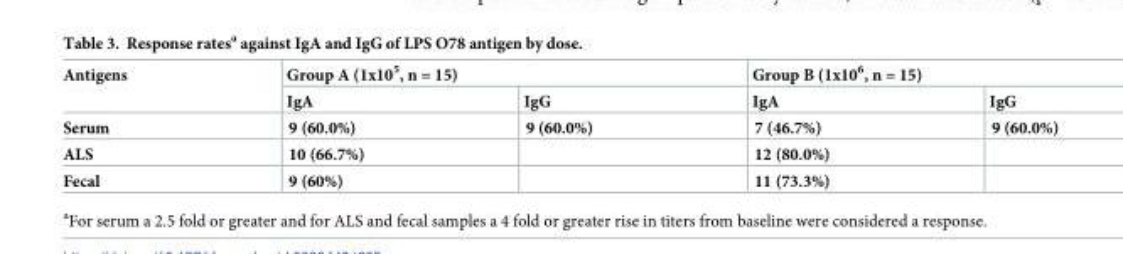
<table><thead><tr><td rowspan="2">Antigens</td><td colspan="2">Group A (1x10<sup>5</sup>, n = 15)</td><td colspan="2">Group B (1x10<sup>6</sup>, n = 15)</td></tr><tr><td>IgA</td><td>IgG</td><td>IgA</td><td>IgG</td></tr></thead><tbody><tr><td>Serum</td><td>9 (60.0%)</td><td>9 (60.0%)</td><td>7 (46.7%)</td><td>9 (60.0%)</td></tr><tr><td>ALS</td><td>10 (66.7%)</td><td></td><td>12 (80.0%)</td><td></td></tr><tr><td>Fecal</td><td>9 (60%)</td><td></td><td>11 (73.3%)</td><td></td></tr></tbody></table>